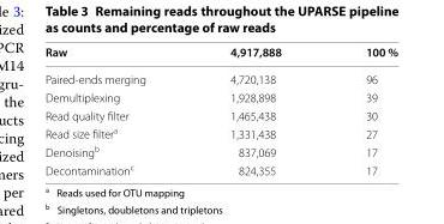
<table><thead><tr><td>Raw</td><td>4,917,888</td><td>100 %</td></tr></thead><tbody><tr><td>Paired-ends merging</td><td>4,720,138</td><td>96</td></tr><tr><td>Demultiplexing</td><td>1,928,898</td><td>39</td></tr><tr><td>Read quality filter</td><td>1,465,438</td><td>30</td></tr><tr><td>Read size filter<sup>a</sup></td><td>1,331,438</td><td>27</td></tr><tr><td>Denoising<sup>b</sup></td><td>837,069</td><td>17</td></tr><tr><td>Decontamination<sup>c</sup></td><td>824,355</td><td>17</td></tr></tbody></table>